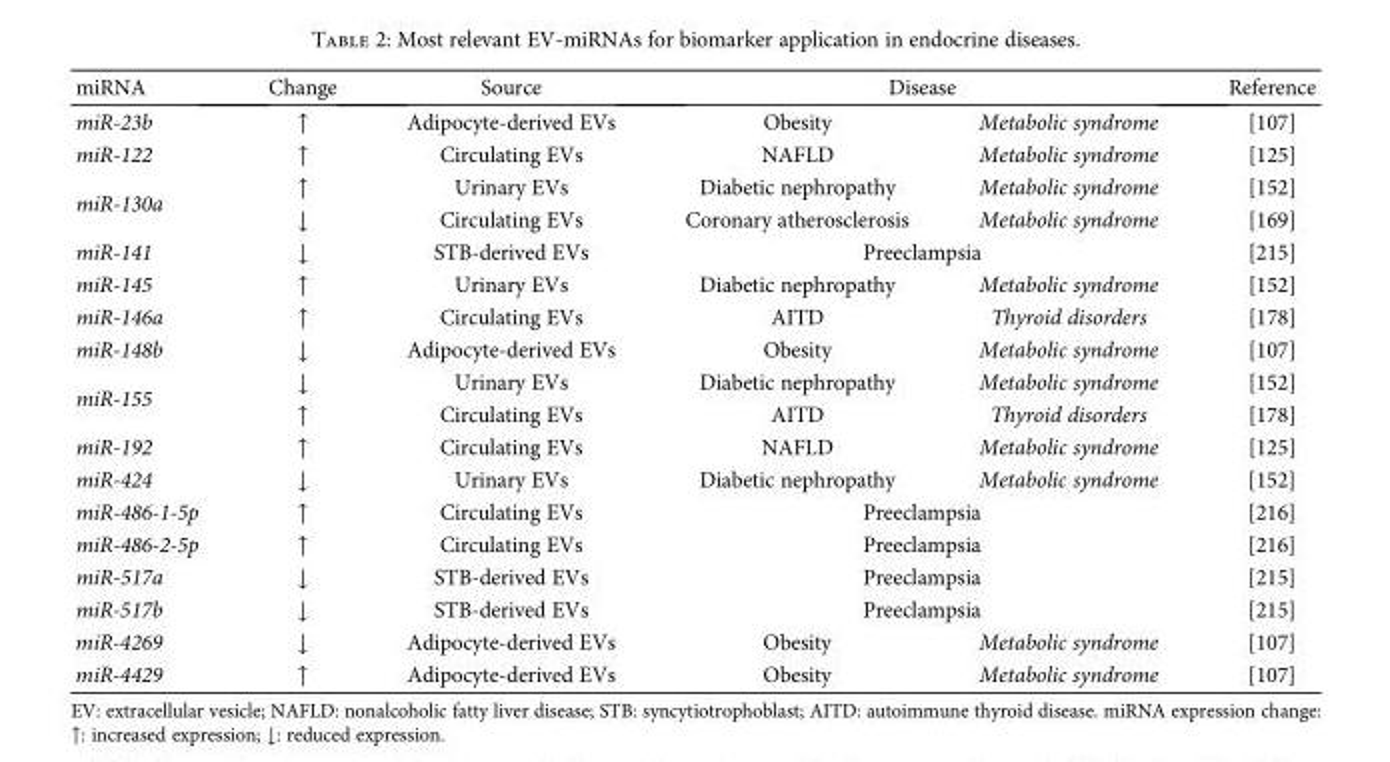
<table><thead><tr><td rowspan="2">miRNA miR-23b</td><td rowspan="2">Change ↑</td><td rowspan="2">Source Adipocyte-derived EVs</td><td colspan="2">Disease</td><td rowspan="2">Reference [107]</td></tr><tr><td>Obesity</td><td>Metabolic syndrome</td></tr></thead><tbody><tr><td>miR-122</td><td>↑</td><td>Circulating EVs</td><td>NAFLD</td><td>Metabolic syndrome</td><td>[125]</td></tr><tr><td rowspan="2">miR-130a</td><td>↑</td><td>Urinary EVs</td><td>Diabetic nephropathy</td><td>Metabolic syndrome</td><td>[152]</td></tr><tr><td>↓</td><td>Circulating EVs</td><td>Coronary atherosclerosis</td><td>Metabolic syndrome</td><td>[169]</td></tr><tr><td>miR-141</td><td>↓</td><td>STB-derived EVs</td><td colspan="2">Preeclampsia</td><td>[215]</td></tr><tr><td>miR-145</td><td>↑</td><td>Urinary EVs</td><td>Diabetic nephropathy</td><td>Metabolic syndrome</td><td>[152]</td></tr><tr><td>miR-146a</td><td>↑</td><td>Circulating EVs</td><td>AITD</td><td>Thyroid disorders</td><td>[178]</td></tr><tr><td>miR-148b</td><td>↓</td><td>Adipocyte-derived EVs</td><td>Obesity</td><td>Metabolic syndrome</td><td>[107]</td></tr><tr><td rowspan="2">miR-155</td><td>↓</td><td>Urinary EVs</td><td>Diabetic nephropathy</td><td>Metabolic syndrome</td><td>[152]</td></tr><tr><td>↑</td><td>Circulating EVs</td><td>AITD</td><td>Thyroid disorders</td><td>[178]</td></tr><tr><td>miR-192</td><td>↑</td><td>Circulating EVs</td><td>NAFLD</td><td>Metabolic syndrome</td><td>[125]</td></tr><tr><td>miR-424</td><td>↓</td><td>Urinary EVs</td><td>Diabetic nephropathy</td><td>Metabolic syndrome</td><td>[152]</td></tr><tr><td>miR-486-1-5p</td><td>↑</td><td>Circulating EVs</td><td colspan="2">Preeclampsia</td><td>[216]</td></tr><tr><td>miR-486-2-5p</td><td>↑</td><td>Circulating EVs</td><td colspan="2">Preeclampsia</td><td>[216]</td></tr><tr><td>miR-517a</td><td>↓</td><td>STB-derived EVs</td><td colspan="2">Preeclampsia</td><td>[215]</td></tr><tr><td>miR-517b</td><td>↓</td><td>STB-derived EVs</td><td colspan="2">Preeclampsia</td><td>[215]</td></tr><tr><td>miR-4269</td><td>↓</td><td>Adipocyte-derived EVs</td><td>Obesity</td><td>Metabolic syndrome</td><td>[107]</td></tr><tr><td>miR-4429</td><td>↑</td><td>Adipocyte-derived EVs</td><td>Obesity</td><td>Metabolic syndrome</td><td>[107]</td></tr></tbody></table>